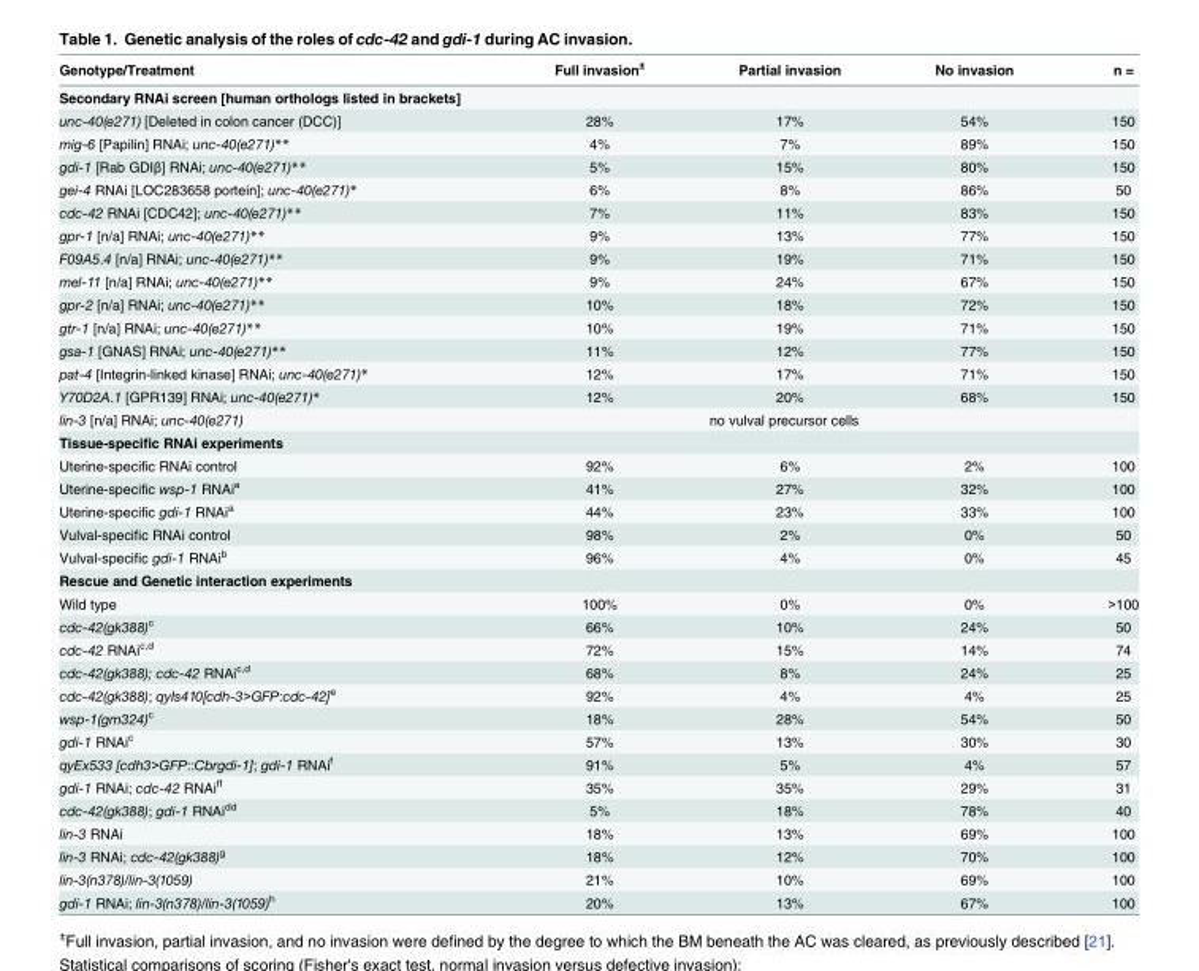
<table><thead><tr><td>Genotype/Treatment</td><td>Full invasion<sup>±</sup></td><td>Partial invasion</td><td>No invasion</td><td>n =</td></tr></thead><tbody><tr><td colspan="5">Secondary RNAi screen [human orthologs listed in brackets]</td></tr><tr><td>unc-40(e271) [Deleted in colon cancer (DCC)]</td><td>28%</td><td>17%</td><td>54%</td><td>150</td></tr><tr><td>mig-6 [Papilin] RNAi; unc-40(e271)**</td><td>4%</td><td>7%</td><td>89%</td><td>150</td></tr><tr><td>gdi-1 [Rab GDIβ] RNAi; unc-40(e271)**</td><td>5%</td><td>15%</td><td>80%</td><td>150</td></tr><tr><td>gei-4 RNAi [LOC283658 portein]; unc-40(e271)*</td><td>6%</td><td>8%</td><td>86%</td><td>50</td></tr><tr><td>cdc-42 RNAi [CDC42]; unc-40(e271)**</td><td>7%</td><td>11%</td><td>83%</td><td>150</td></tr><tr><td>gpr-1 [n/a] RNAi; unc-40(e271)**</td><td>9%</td><td>13%</td><td>77%</td><td>150</td></tr><tr><td>F09A5.4 [n/a] RNAi; unc-40(e271)**</td><td>9%</td><td>19%</td><td>71%</td><td>150</td></tr><tr><td>mel-11 [n/a] RNAi; unc-40(e271)**</td><td>9%</td><td>24%</td><td>67%</td><td>150</td></tr><tr><td>gpr-2 [n/a] RNAi; unc-40(e271)**</td><td>10%</td><td>18%</td><td>72%</td><td>150</td></tr><tr><td>gtr-1 [n/a] RNAi; unc-40(e271)**</td><td>10%</td><td>19%</td><td>71%</td><td>150</td></tr><tr><td>gsa-1 [GNAS] RNAi; unc-40(e271)**</td><td>11%</td><td>12%</td><td>77%</td><td>150</td></tr><tr><td>pat-4 [Integrin-linked kinase] RNAi; unc-40(e271)*</td><td>12%</td><td>17%</td><td>71%</td><td>150</td></tr><tr><td>Y70D2A.1 [GPR139] RNAi; unc-40(e271)*</td><td>12%</td><td>20%</td><td>68%</td><td>150</td></tr><tr><td>lin-3 [n/a] RNAi; unc-40(e271)</td><td colspan="3">no vulval precursor cells</td><td></td></tr><tr><td colspan="5">Tissue-specific RNAi experiments</td></tr><tr><td>Uterine-specific RNAi control</td><td>92%</td><td>6%</td><td>2%</td><td>100</td></tr><tr><td>Uterine-specific wsp-1 RNAi<sup>a</sup></td><td>41%</td><td>27%</td><td>32%</td><td>100</td></tr><tr><td>Uterine-specific gdi-1 RNAi<sup>a</sup></td><td>44%</td><td>23%</td><td>33%</td><td>100</td></tr><tr><td>Vulval-specific RNAi control</td><td>98%</td><td>2%</td><td>0%</td><td>50</td></tr><tr><td>Vulval-specific gdi-1 RNAi<sup>b</sup></td><td>96%</td><td>4%</td><td>0%</td><td>45</td></tr><tr><td colspan="5">Rescue and Genetic interaction experiments</td></tr><tr><td>Wild type</td><td>100%</td><td>0%</td><td>0%</td><td>&gt;100</td></tr><tr><td>cdc-42(gk388)<sup>c</sup></td><td>66%</td><td>10%</td><td>24%</td><td>50</td></tr><tr><td>cdc-42 RNAi<sup>c,d</sup></td><td>72%</td><td>15%</td><td>14%</td><td>74</td></tr><tr><td>cdc-42(gk388); cdc-42 RNAi<sup>c,d</sup></td><td>68%</td><td>8%</td><td>24%</td><td>25</td></tr><tr><td>cdc-42(gk388); qyIs410[cdh-3&gt;GFP:cdc-42]<sup>e</sup></td><td>92%</td><td>4%</td><td>4%</td><td>25</td></tr><tr><td>wsp-1(gm324)<sup>c</sup></td><td>18%</td><td>28%</td><td>54%</td><td>50</td></tr><tr><td>gdi-1 RNAi<sup>c</sup></td><td>57%</td><td>13%</td><td>30%</td><td>30</td></tr><tr><td>qyEx533 [cdh3&gt;GFP::Cbrgdi-1]; gdi-1 RNAi<sup>f</sup></td><td>91%</td><td>5%</td><td>4%</td><td>57</td></tr><tr><td>gdi-1 RNAi; cdc-42 RNAi<sup>ff</sup></td><td>35%</td><td>35%</td><td>29%</td><td>31</td></tr><tr><td>cdc-42(gk388); gdi-1 RNAi<sup>dd</sup></td><td>5%</td><td>18%</td><td>78%</td><td>40</td></tr><tr><td>lin-3 RNAi</td><td>18%</td><td>13%</td><td>69%</td><td>100</td></tr><tr><td>lin-3 RNAi; cdc-42(gk388)<sup>g</sup></td><td>18%</td><td>12%</td><td>70%</td><td>100</td></tr><tr><td>lin-3(n378)/lin-3(1059)</td><td>21%</td><td>10%</td><td>69%</td><td>100</td></tr><tr><td>gdi-1 RNAi; lin-3(n378)/lin-3(1059)<sup>h</sup></td><td>20%</td><td>13%</td><td>67%</td><td>100</td></tr></tbody></table>